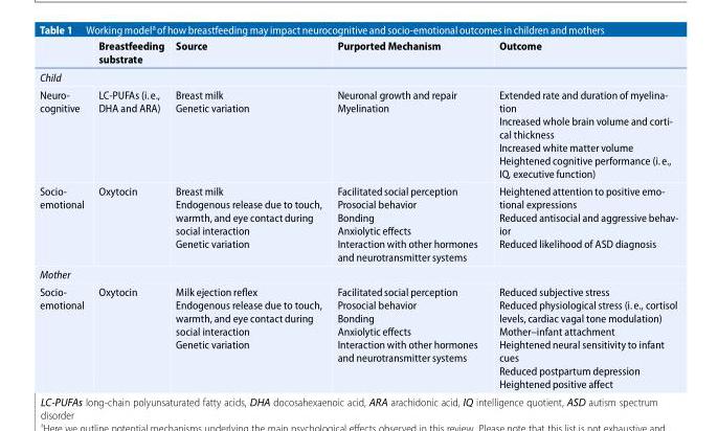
<table><thead><tr><td></td><td>Breastfeeding substrate</td><td>Source</td><td>Purported Mechanism</td><td>Outcome</td></tr></thead><tbody><tr><td colspan="5">Child</td></tr><tr><td>Neuro- cognitive</td><td>LC-PUFAs (i.e., DHA and ARA)</td><td>Breast milk Genetic variation</td><td>Neuronal growth and repair Myelination</td><td>Extended rate and duration of myelina- tion Increased whole brain volume and corti- cal thickness Increased white matter volume Heightened cognitive performance (i.e., IQ, executive function)</td></tr><tr><td>Socio- emotional</td><td>Oxytocin</td><td>Breast milk Endogenous release due to touch, warmth, and eye contact during social interaction Genetic variation</td><td>Facilitatedsocial perception Prosocial behavior Bonding Anxiolytic effects Interaction with other hormones and neurotransmitter systems</td><td>Heightened attention to positive emo- tional expressions Reduced antisocial and aggressive behav- ior Reduced likelihood of ASD diagnosis</td></tr><tr><td colspan="5">Mother</td></tr><tr><td>Socio- emotional</td><td>Oxytocin</td><td>Milk ejection reflex Endogenous release due to touch, warmth, and eye contact during social interaction Genetic variation</td><td>Facilitatedsocial perception Prosocial behavior Bonding Anxiolytic effects Interaction with other hormones and neurotransmitter systems</td><td>Reduced subjective stress Reduced physiological stress (i.e., cortisol levels, cardiac vagal tone modulation) Mother–infant attachment Heightened neural sensitivity to infant cues Reduced postpartum depression Heightened positive affect</td></tr></tbody></table>